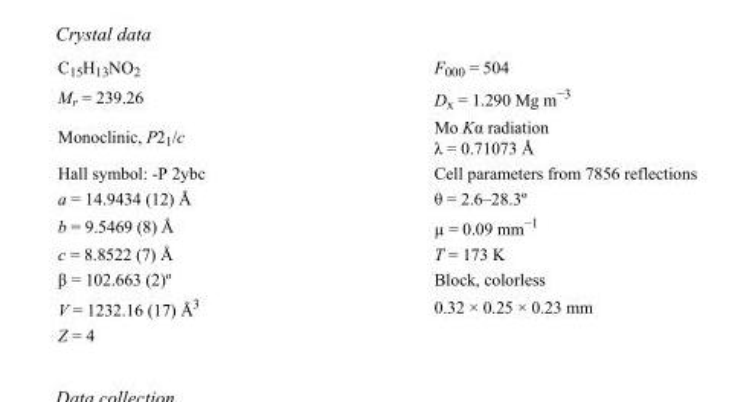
<table><tbody><tr><td>C<sub>15</sub>H<sub>13</sub>NO<sub>2</sub></td><td>F000 = 504</td></tr><tr><td>M<sub>r</sub> = 239.26</td><td>D<sub>x</sub> = 1.290 Mg m<sup>−3</sup></td></tr><tr><td>Monoclinic, P2<sub>1</sub>/c</td><td>Mo Kα radiation λ = 0.71073 Å</td></tr><tr><td>Hall symbol: -P 2ybc</td><td>Cell parameters from 7856 reflections</td></tr><tr><td>a = 14.9434 (12) Å</td><td>θ = 2.6–28.3º</td></tr><tr><td>b = 9.5469 (8) Å</td><td>µ = 0.09 mm<sup>−1</sup></td></tr><tr><td>c = 8.8522 (7) Å</td><td>T = 173 K</td></tr><tr><td>β = 102.663 (2)º</td><td>Block, colorless</td></tr><tr><td>V = 1232.16 (17) Å<sup>3</sup></td><td>0.32 × 0.25 × 0.23 mm</td></tr><tr><td>Z = 4</td><td></td></tr></tbody></table>